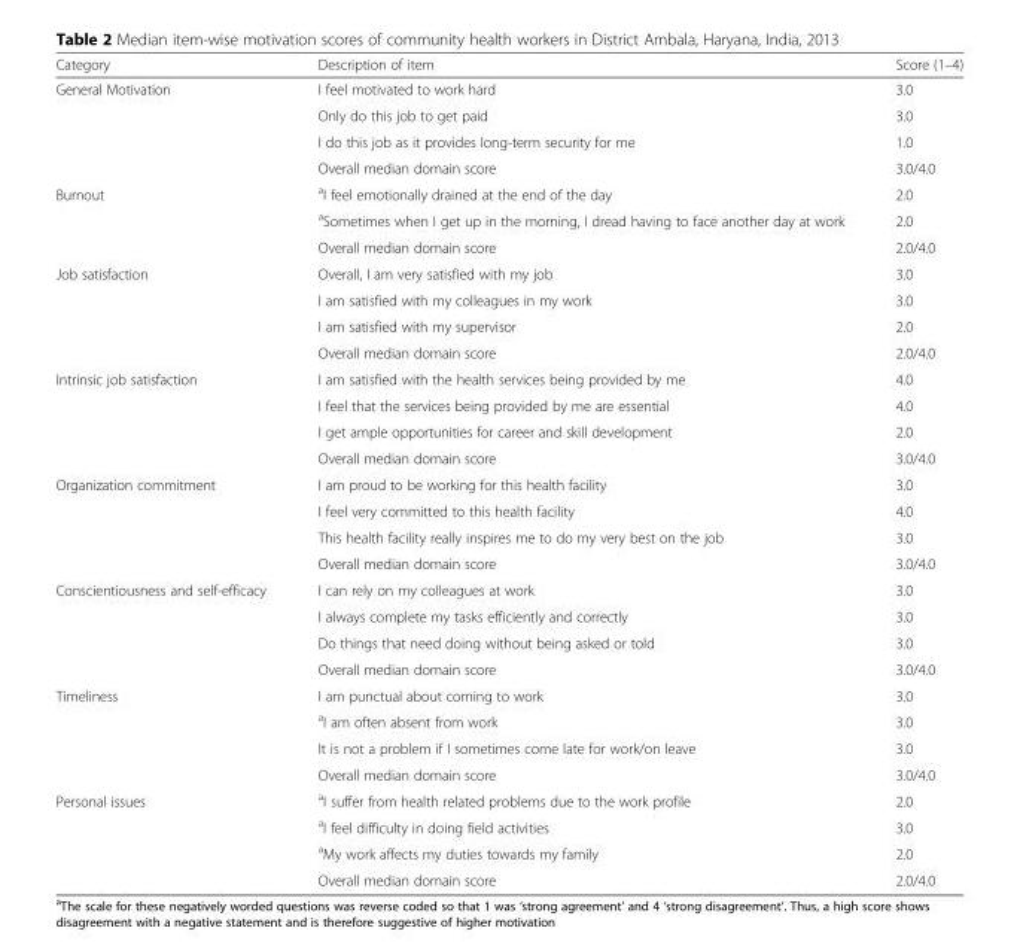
<table><thead><tr><td>Category</td><td>Description of item</td><td>Score (1–4)</td></tr></thead><tbody><tr><td rowspan="4">General Motivation</td><td>I feel motivated to work hard</td><td>3.0</td></tr><tr><td>Only do this job to get paid</td><td>3.0</td></tr><tr><td>I do this job as it provides long-term security for me</td><td>1.0</td></tr><tr><td>Overall median domain score</td><td>3.0/4.0</td></tr><tr><td rowspan="3">Burnout</td><td><sup>a</sup>I feel emotionally drained at the end of the day</td><td>2.0</td></tr><tr><td><sup>a</sup>Sometimes when I get up in the morning, I dread having to face another day at work</td><td>2.0</td></tr><tr><td>Overall median domain score</td><td>2.0/4.0</td></tr><tr><td rowspan="4">Job satisfaction</td><td>Overall, I am very satisfied with my job</td><td>3.0</td></tr><tr><td>I am satisfied with my colleagues in my work</td><td>3.0</td></tr><tr><td>I am satisfied with my supervisor</td><td>2.0</td></tr><tr><td>Overall median domain score</td><td>2.0/4.0</td></tr><tr><td rowspan="4">Intrinsic job satisfaction</td><td>I am satisfied with the health services being provided by me</td><td>4.0</td></tr><tr><td>I feel that the services being provided by me are essential</td><td>4.0</td></tr><tr><td>I get ample opportunities for career and skill development</td><td>2.0</td></tr><tr><td>Overall median domain score</td><td>3.0/4.0</td></tr><tr><td rowspan="4">Organization commitment</td><td>I am proud to be working for this health facility</td><td>3.0</td></tr><tr><td>I feel very committed to this health facility</td><td>4.0</td></tr><tr><td>This health facility really inspires me to do my very best on the job</td><td>3.0</td></tr><tr><td>Overall median domain score</td><td>3.0/4.0</td></tr><tr><td rowspan="4">Conscientiousness and self-efficacy</td><td>I can rely on my colleagues at work</td><td>3.0</td></tr><tr><td>I always complete my tasks efficiently and correctly</td><td>3.0</td></tr><tr><td>Do things that need doing without being asked or told</td><td>3.0</td></tr><tr><td>Overall median domain score</td><td>3.0/4.0</td></tr><tr><td rowspan="4">Timeliness</td><td>I am punctual about coming to work</td><td>3.0</td></tr><tr><td><sup>a</sup>I am often absent from work</td><td>3.0</td></tr><tr><td>It is not a problem if I sometimes come late for work/on leave</td><td>3.0</td></tr><tr><td>Overall median domain score</td><td>3.0/4.0</td></tr><tr><td rowspan="4">Personal issues</td><td><sup>a</sup>I suffer from health related problems due to the work profile</td><td>2.0</td></tr><tr><td><sup>a</sup>I feel difficulty in doing field activities</td><td>3.0</td></tr><tr><td><sup>a</sup>My work affects my duties towards my family</td><td>2.0</td></tr><tr><td>Overall median domain score</td><td>2.0/4.0</td></tr></tbody></table>